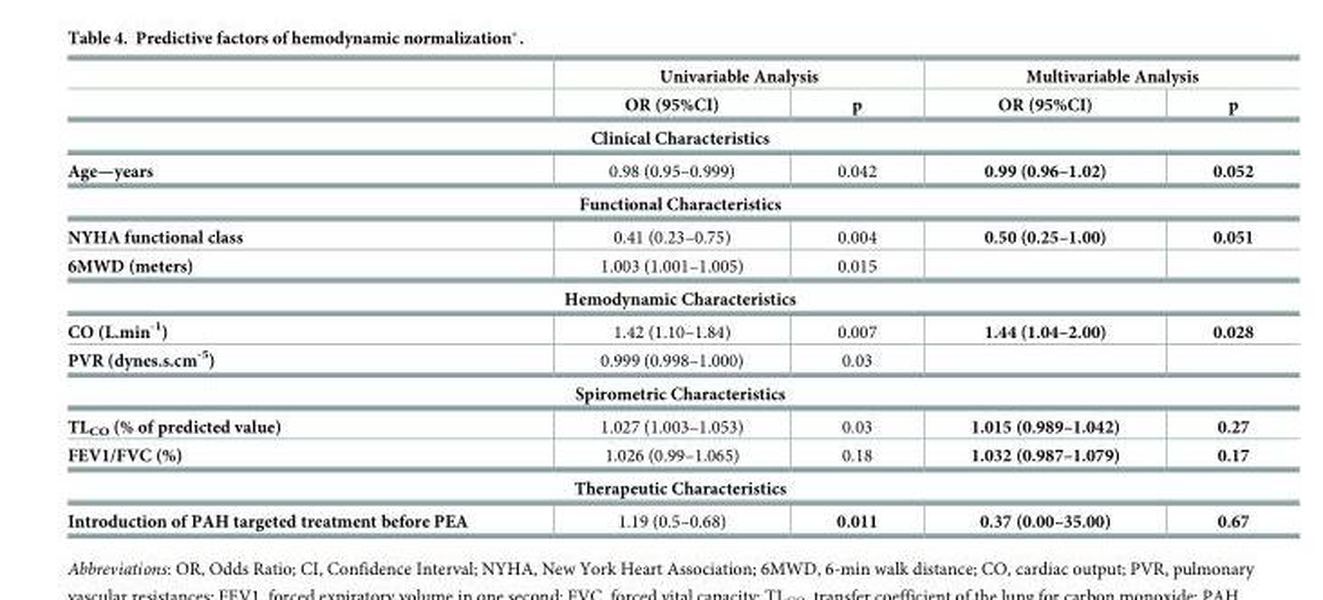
<table><thead><tr><td rowspan="2"></td><td colspan="2">Univariable Analysis</td><td colspan="2">Multivariable Analysis</td></tr><tr><td>OR (95%CI)</td><td>p</td><td>OR (95%CI)</td><td>p</td></tr></thead><tbody><tr><td colspan="5">Clinical Characteristics</td></tr><tr><td>Age—years</td><td>0.98 (0.95–0.999)</td><td>0.042</td><td>0.99 (0.96–1.02)</td><td>0.052</td></tr><tr><td colspan="5">Functional Characteristics</td></tr><tr><td>NYHA functional class</td><td>0.41 (0.23–0.75)</td><td>0.004</td><td>0.50 (0.25–1.00)</td><td>0.051</td></tr><tr><td>6MWD (meters)</td><td>1.003 (1.001–1.005)</td><td>0.015</td><td></td><td></td></tr><tr><td colspan="5">Hemodynamic Characteristics</td></tr><tr><td>CO (L.min<sup>-1</sup>)</td><td>1.42 (1.10–1.84)</td><td>0.007</td><td>1.44 (1.04–2.00)</td><td>0.028</td></tr><tr><td>PVR (dynes.s.cm<sup>-5</sup>)</td><td>0.999 (0.998–1.000)</td><td>0.03</td><td></td><td></td></tr><tr><td colspan="5">Spirometric Characteristics</td></tr><tr><td>TL<sub>CO</sub> (% of predicted value)</td><td>1.027 (1.003–1.053)</td><td>0.03</td><td>1.015 (0.989–1.042)</td><td>0.27</td></tr><tr><td>FEV1/FVC (%)</td><td>1.026 (0.99–1.065)</td><td>0.18</td><td>1.032 (0.987–1.079)</td><td>0.17</td></tr><tr><td colspan="5">Therapeutic Characteristics</td></tr><tr><td>Introduction of PAH targeted treatment before PEA</td><td>1.19 (0.5–0.68)</td><td>0.011</td><td>0.37 (0.00–35.00)</td><td>0.67</td></tr></tbody></table>